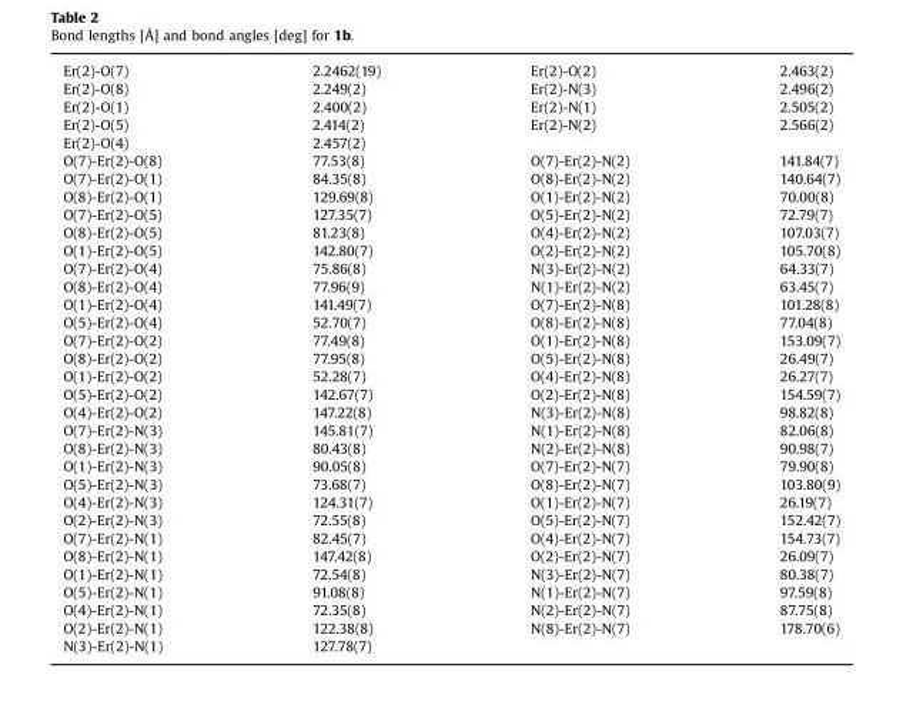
<table><tbody><tr><td>Er(2)-O(7)</td><td>2.2462(19)</td><td>Er(2)-O(2)</td><td>2.463(2)</td></tr><tr><td>Er(2)-O(8)</td><td>2.249(2)</td><td>Er(2)-N(3)</td><td>2.496(2)</td></tr><tr><td>Er(2)-O(1)</td><td>2.400(2)</td><td>Er(2)-N(1)</td><td>2.505(2)</td></tr><tr><td>Er(2)-O(5)</td><td>2.414(2)</td><td>Er(2)-N(2)</td><td>2.566(2)</td></tr><tr><td>Er(2)-O(4)</td><td>2.457(2)</td><td></td><td></td></tr><tr><td>O(7)-Er(2)-O(8)</td><td>77.53(8)</td><td>O(7)-Er(2)-N(2)</td><td>141.84(7)</td></tr><tr><td>O(7)-Er(2)-O(1)</td><td>84.35(8)</td><td>O(8)-Er(2)-N(2)</td><td>140.64(7)</td></tr><tr><td>O(8)-Er(2)-O(1)</td><td>129.69(8)</td><td>O(1)-Er(2)-N(2)</td><td>70.00(8)</td></tr><tr><td>O(7)-Er(2)-O(5)</td><td>127.35(7)</td><td>O(5)-Er(2)-N(2)</td><td>72.79(7)</td></tr><tr><td>O(8)-Er(2)-O(5)</td><td>81.23(8)</td><td>O(4)-Er(2)-N(2)</td><td>107.03(7)</td></tr><tr><td>O(1)-Er(2)-O(5)</td><td>142.80(7)</td><td>O(2)-Er(2)-N(2)</td><td>105.70(8)</td></tr><tr><td>O(7)-Er(2)-O(4)</td><td>75.86(8)</td><td>N(3)-Er(2)-N(2)</td><td>64.33(7)</td></tr><tr><td>O(8)-Er(2)-O(4)</td><td>77.96(9)</td><td>N(1)-Er(2)-N(2)</td><td>63.45(7)</td></tr><tr><td>O(1)-Er(2)-O(4)</td><td>141.49(7)</td><td>O(7)-Er(2)-N(8)</td><td>101.28(8)</td></tr><tr><td>O(5)-Er(2)-O(4)</td><td>52.70(7)</td><td>O(8)-Er(2)-N(8)</td><td>77.04(8)</td></tr><tr><td>O(7)-Er(2)-O(2)</td><td>77.49(8)</td><td>O(1)-Er(2)-N(8)</td><td>153.09(7)</td></tr><tr><td>O(8)-Er(2)-O(2)</td><td>77.95(8)</td><td>O(5)-Er(2)-N(8)</td><td>26.49(7)</td></tr><tr><td>O(1)-Er(2)-O(2)</td><td>52.28(7)</td><td>O(4)-Er(2)-N(8)</td><td>26.27(7)</td></tr><tr><td>O(5)-Er(2)-O(2)</td><td>142.67(7)</td><td>O(2)-Er(2)-N(8)</td><td>154.59(7)</td></tr><tr><td>O(4)-Er(2)-O(2)</td><td>147.22(8)</td><td>N(3)-Er(2)-N(8)</td><td>98.82(8)</td></tr><tr><td>O(7)-Er(2)-N(3)</td><td>145.81(7)</td><td>N(1)-Er(2)-N(8)</td><td>82.06(8)</td></tr><tr><td>O(8)-Er(2)-N(3)</td><td>80.43(8)</td><td>N(2)-Er(2)-N(8)</td><td>90.98(7)</td></tr><tr><td>O(1)-Er(2)-N(3)</td><td>90.05(8)</td><td>O(7)-Er(2)-N(7)</td><td>79.90(8)</td></tr><tr><td>O(5)-Er(2)-N(3)</td><td>73.68(7)</td><td>O(8)-Er(2)-N(7)</td><td>103.80(9)</td></tr><tr><td>O(4)-Er(2)-N(3)</td><td>124.31(7)</td><td>O(1)-Er(2)-N(7)</td><td>26.19(7)</td></tr><tr><td>O(2)-Er(2)-N(3)</td><td>72.55(8)</td><td>O(5)-Er(2)-N(7)</td><td>152.42(7)</td></tr><tr><td>O(7)-Er(2)-N(1)</td><td>82.45(7)</td><td>O(4)-Er(2)-N(7)</td><td>154.73(7)</td></tr><tr><td>O(8)-Er(2)-N(1)</td><td>147.42(8)</td><td>O(2)-Er(2)-N(7)</td><td>26.09(7)</td></tr><tr><td>O(1)-Er(2)-N(1)</td><td>72.54(8)</td><td>N(3)-Er(2)-N(7)</td><td>80.38(7)</td></tr><tr><td>O(5)-Er(2)-N(1)</td><td>91.08(8)</td><td>N(1)-Er(2)-N(7)</td><td>97.59(8)</td></tr><tr><td>O(4)-Er(2)-N(1)</td><td>72.35(8)</td><td>N(2)-Er(2)-N(7)</td><td>87.75(8)</td></tr><tr><td>O(2)-Er(2)-N(1)</td><td>122.38(8)</td><td>N(8)-Er(2)-N(7)</td><td>178.70(6)</td></tr><tr><td>N(3)-Er(2)-N(1)</td><td>127.78(7)</td><td></td><td></td></tr></tbody></table>